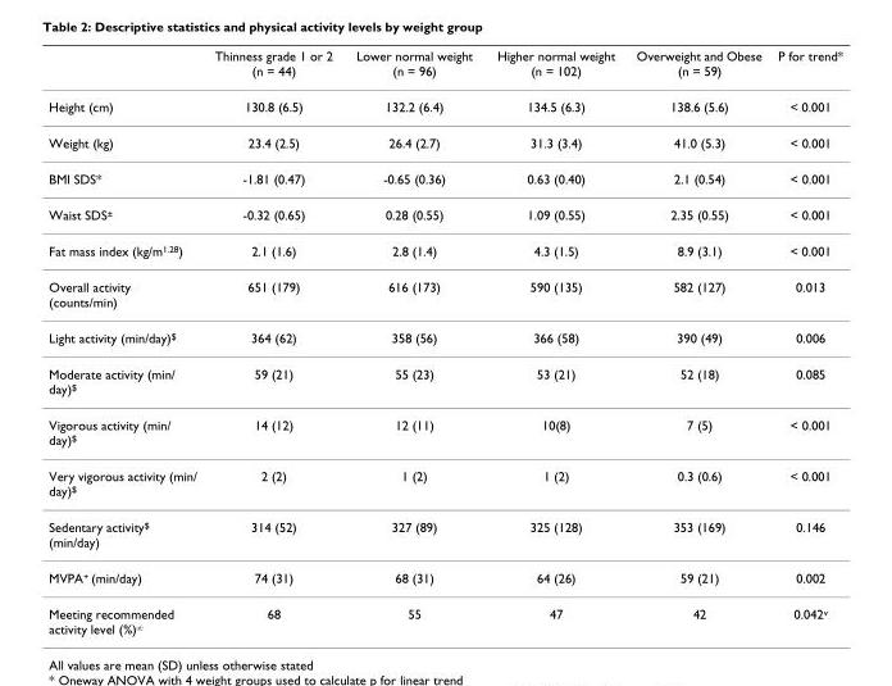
<table><thead><tr><td></td><td>Thinness grade 1 or 2 (n = 44)</td><td>Lower normal weight (n = 96)</td><td>Higher normal weight (n = 102)</td><td>Overweight and Obese (n = 59)</td><td>P for trend*</td></tr></thead><tbody><tr><td>Height (cm)</td><td>130.8 (6.5)</td><td>132.2 (6.4)</td><td>134.5 (6.3)</td><td>138.6 (5.6)</td><td>&lt; 0.001</td></tr><tr><td>Weight (kg)</td><td>23.4 (2.5)</td><td>26.4 (2.7)</td><td>31.3 (3.4)</td><td>41.0 (5.3)</td><td>&lt; 0.001</td></tr><tr><td>BMI SDS*</td><td>-1.81 (0.47)</td><td>-0.65 (0.36)</td><td>0.63 (0.40)</td><td>2.1 (0.54)</td><td>&lt; 0.001</td></tr><tr><td>Waist SDS<sup>±</sup></td><td>-0.32 (0.65)</td><td>0.28 (0.55)</td><td>1.09 (0.55)</td><td>2.35 (0.55)</td><td>&lt; 0.001</td></tr><tr><td>Fat mass index (kg/m<sup>1.28</sup>)</td><td>2.1 (1.6)</td><td>2.8 (1.4)</td><td>4.3 (1.5)</td><td>8.9 (3.1)</td><td>&lt; 0.001</td></tr><tr><td>Overall activity (counts/min)</td><td>651 (179)</td><td>616 (173)</td><td>590 (135)</td><td>582 (127)</td><td>0.013</td></tr><tr><td>Light activity (min/day)<sup>$</sup></td><td>364 (62)</td><td>358 (56)</td><td>366 (58)</td><td>390 (49)</td><td>0.006</td></tr><tr><td>Moderate activity (min/ day)<sup>$</sup></td><td>59 (21)</td><td>55 (23)</td><td>53 (21)</td><td>52 (18)</td><td>0.085</td></tr><tr><td>Vigorous activity (min/ day)<sup>$</sup></td><td>14 (12)</td><td>12 (11)</td><td>10(8)</td><td>7 (5)</td><td>&lt; 0.001</td></tr><tr><td>Very vigorous activity (min/ day)<sup>$</sup></td><td>2 (2)</td><td>1 (2)</td><td>1 (2)</td><td>0.3 (0.6)</td><td>&lt; 0.001</td></tr><tr><td>Sedentary activity<sup>$</sup> (min/day)</td><td>314 (52)</td><td>327 (89)</td><td>325 (128)</td><td>353 (169)</td><td>0.146</td></tr><tr><td>MVPA<sup>+</sup> (min/day)</td><td>74 (31)</td><td>68 (31)</td><td>64 (26)</td><td>59 (21)</td><td>0.002</td></tr><tr><td>Meeting recommended activity level (%)<sup>∞</sup></td><td>68</td><td>55</td><td>47</td><td>42</td><td>0.042<sup>v</sup></td></tr></tbody></table>